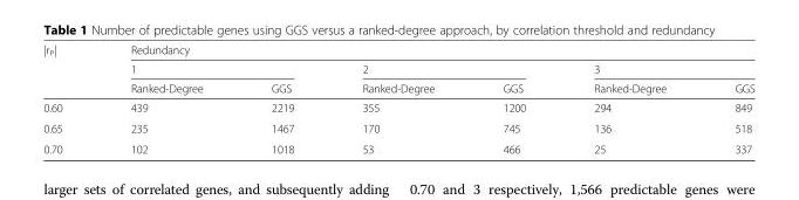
<table><thead><tr><td rowspan="3">|r<sub>P</sub>|</td><td colspan="6">Redundancy</td></tr><tr><td colspan="2">1</td><td colspan="2">2</td><td colspan="2">3</td></tr><tr><td>Ranked-Degree</td><td>GGS</td><td>Ranked-Degree</td><td>GGS</td><td>Ranked-Degree</td><td>GGS</td></tr></thead><tbody><tr><td>0.60</td><td>439</td><td>2219</td><td>355</td><td>1200</td><td>294</td><td>849</td></tr><tr><td>0.65</td><td>235</td><td>1467</td><td>170</td><td>745</td><td>136</td><td>518</td></tr><tr><td>0.70</td><td>102</td><td>1018</td><td>53</td><td>466</td><td>25</td><td>337</td></tr></tbody></table>